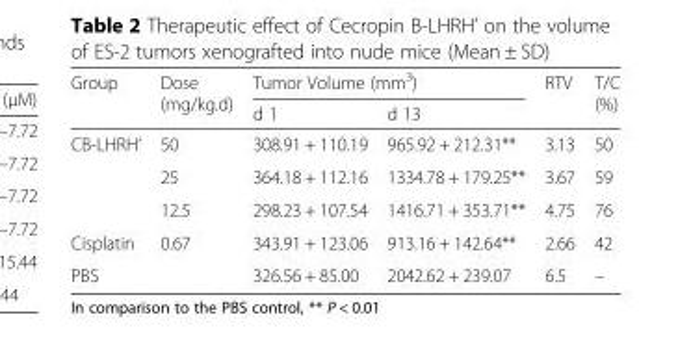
<table><thead><tr><td rowspan="2">Group</td><td rowspan="2">Dose (mg/kg.d)</td><td colspan="2">Tumor Volume (mm<sup>3</sup>)</td><td rowspan="2">RTV</td><td rowspan="2">T/C (%)</td></tr><tr><td>d 1</td><td>d 13</td></tr></thead><tbody><tr><td rowspan="3">CB-LHRH’</td><td>50</td><td>308.91 + 110.19</td><td>965.92 + 212.31**</td><td>3.13</td><td>50</td></tr><tr><td>25</td><td>364.18 + 112.16</td><td>1334.78 + 179.25**</td><td>3.67</td><td>59</td></tr><tr><td>12.5</td><td>298.23 + 107.54</td><td>1416.71 + 353.71**</td><td>4.75</td><td>76</td></tr><tr><td>Cisplatin</td><td>0.67</td><td>343.91 + 123.06</td><td>913.16 + 142.64**</td><td>2.66</td><td>42</td></tr><tr><td>PBS</td><td></td><td>326.56 + 85.00</td><td>2042.62 + 239.07</td><td>6.5</td><td>–</td></tr></tbody></table>